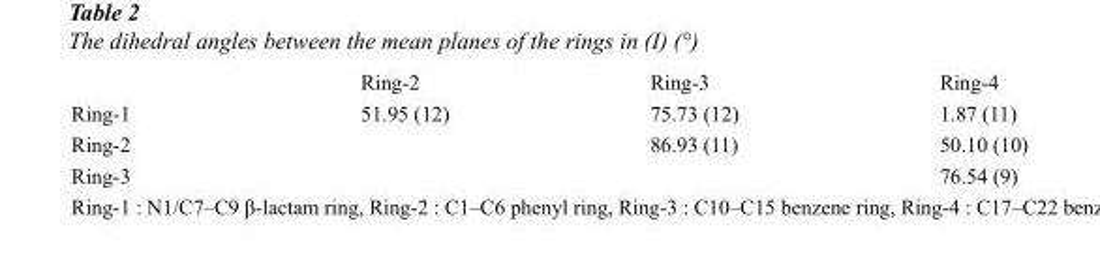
<table><thead><tr><td></td><td>Ring-2</td><td>Ring-3</td><td>Ring-4</td></tr></thead><tbody><tr><td>Ring-1</td><td>51.95 (12)</td><td>75.73 (12)</td><td>1.87 (11)</td></tr><tr><td>Ring-2</td><td></td><td>86.93 (11)</td><td>50.10 (10)</td></tr><tr><td>Ring-3</td><td></td><td></td><td>76.54 (9)</td></tr></tbody></table>